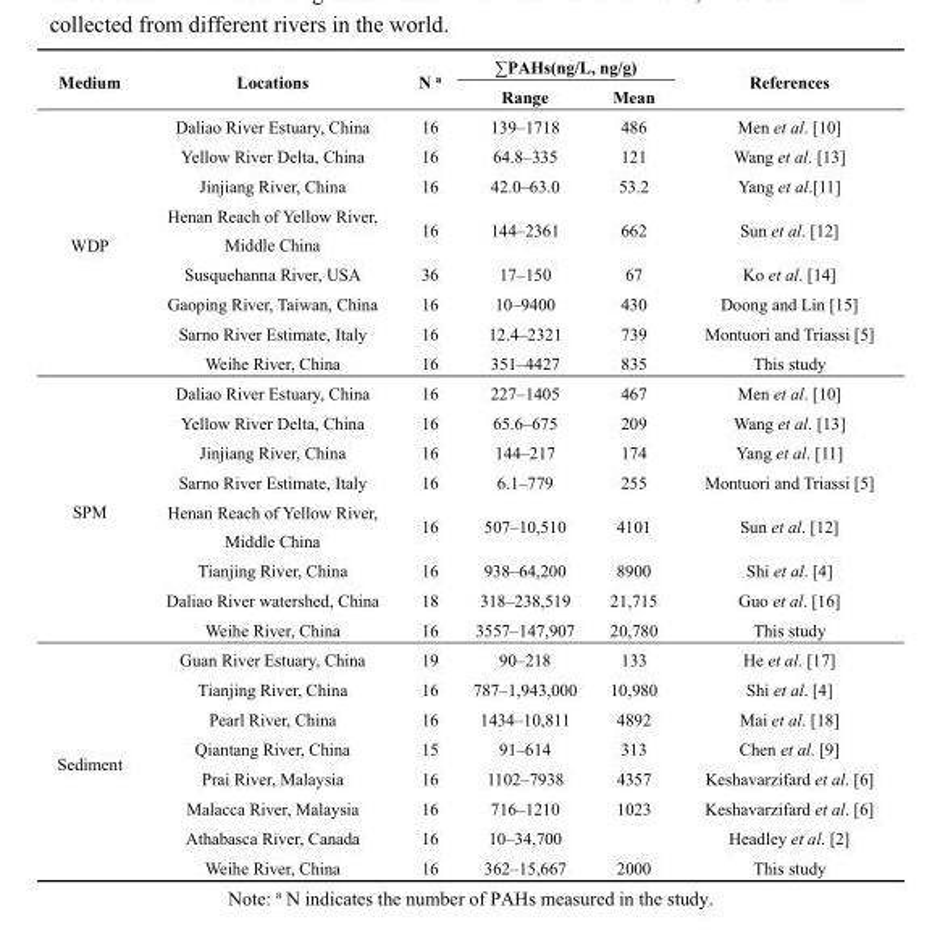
<table><thead><tr><td rowspan="2">Medium</td><td rowspan="2">Locations</td><td rowspan="2">N <sup>a</sup></td><td colspan="2">∑PAHs(ng/L, ng/g)</td><td rowspan="2">References</td></tr><tr><td>Range</td><td>Mean</td></tr></thead><tbody><tr><td rowspan="8">WDP</td><td>Daliao River Estuary, China</td><td>16</td><td>139–1718</td><td>486</td><td>Men et al. [10]</td></tr><tr><td>Yellow River Delta, China</td><td>16</td><td>64.8–335</td><td>121</td><td>Wang et al. [13]</td></tr><tr><td>Jinjiang River, China</td><td>16</td><td>42.0–63.0</td><td>53.2</td><td>Yang et al.[11]</td></tr><tr><td>Henan Reach of Yellow River, Middle China</td><td>16</td><td>144–2361</td><td>662</td><td>Sun et al. [12]</td></tr><tr><td>Susquehanna River, USA</td><td>36</td><td>17–150</td><td>67</td><td>Ko et al. [14]</td></tr><tr><td>Gaoping River, Taiwan, China</td><td>16</td><td>10–9400</td><td>430</td><td>Doong and Lin [15]</td></tr><tr><td>Sarno River Estimate, Italy</td><td>16</td><td>12.4–2321</td><td>739</td><td>Montuori and Triassi [5]</td></tr><tr><td>Weihe River, China</td><td>16</td><td>351–4427</td><td>835</td><td>This study</td></tr><tr><td rowspan="8">SPM</td><td>Daliao River Estuary, China</td><td>16</td><td>227–1405</td><td>467</td><td>Men et al. [10]</td></tr><tr><td>Yellow River Delta, China</td><td>16</td><td>65.6–675</td><td>209</td><td>Wang et al. [13]</td></tr><tr><td>Jinjiang River, China</td><td>16</td><td>144–217</td><td>174</td><td>Yang et al. [11]</td></tr><tr><td>Sarno River Estimate, Italy</td><td>16</td><td>6.1–779</td><td>255</td><td>Montuori and Triassi [5]</td></tr><tr><td>Henan Reach of Yellow River, Middle China</td><td>16</td><td>507–10,510</td><td>4101</td><td>Sun et al. [12]</td></tr><tr><td>Tianjing River, China</td><td>16</td><td>938–64,200</td><td>8900</td><td>Shi et al. [4]</td></tr><tr><td>Daliao River watershed, China</td><td>18</td><td>318–238,519</td><td>21,715</td><td>Guo et al. [16]</td></tr><tr><td>Weihe River, China</td><td>16</td><td>3557–147,907</td><td>20,780</td><td>This study</td></tr><tr><td rowspan="8">Sediment</td><td>Guan River Estuary, China</td><td>19</td><td>90–218</td><td>133</td><td>He et al. [17]</td></tr><tr><td>Tianjing River, China</td><td>16</td><td>787–1,943,000</td><td>10,980</td><td>Shi et al. [4]</td></tr><tr><td>Pearl River, China</td><td>16</td><td>1434–10,811</td><td>4892</td><td>Mai et al. [18]</td></tr><tr><td>Qiantang River, China</td><td>15</td><td>91–614</td><td>313</td><td>Chen et al. [9]</td></tr><tr><td>Prai River, Malaysia</td><td>16</td><td>1102–7938</td><td>4357</td><td>Keshavarzifard et al. [6]</td></tr><tr><td>Malacca River, Malaysia</td><td>16</td><td>716–1210</td><td>1023</td><td>Keshavarzifard et al. [6]</td></tr><tr><td>Athabasca River, Canada</td><td>16</td><td>10–34,700</td><td></td><td>Headley et al. [2]</td></tr><tr><td>Weihe River, China</td><td>16</td><td>362–15,667</td><td>2000</td><td>This study</td></tr></tbody></table>